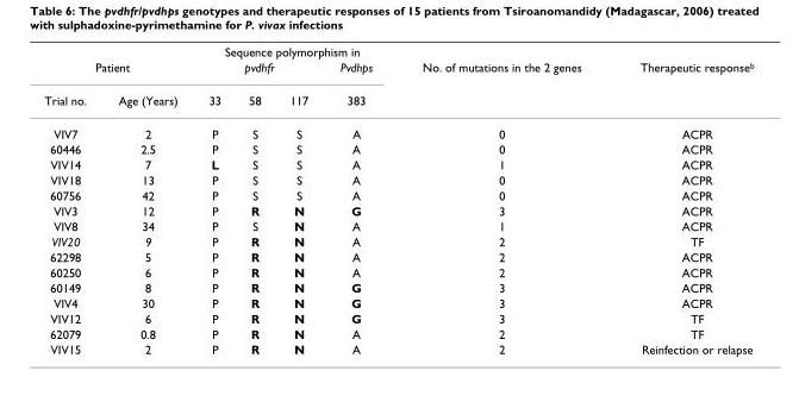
<table><thead><tr><td></td><td></td><td colspan="4">Sequence polymorphism in</td><td rowspan="3">No. of mutations in the 2 genes</td><td rowspan="3">Therapeutic response<sup>b</sup></td></tr><tr><td colspan="2">Patient</td><td colspan="3">pvdhfr</td><td rowspan="2">Pvdhps 383</td></tr><tr><td>Trial no.</td><td>Age (Years)</td><td>33</td><td>58</td><td>117</td></tr></thead><tbody><tr><td>VIV7</td><td>2</td><td>P</td><td>S</td><td>S</td><td>A</td><td>0</td><td>ACPR</td></tr><tr><td>60446</td><td>2.5</td><td>P</td><td>S</td><td>S</td><td>A</td><td>0</td><td>ACPR</td></tr><tr><td>VIV14</td><td>7</td><td>L</td><td>S</td><td>S</td><td>A</td><td>1</td><td>ACPR</td></tr><tr><td>VIV18</td><td>13</td><td>P</td><td>S</td><td>S</td><td>A</td><td>0</td><td>ACPR</td></tr><tr><td>60756</td><td>42</td><td>P</td><td>S</td><td>S</td><td>A</td><td>0</td><td>ACPR</td></tr><tr><td>VIV3</td><td>12</td><td>P</td><td>R</td><td>N</td><td>G</td><td>3</td><td>ACPR</td></tr><tr><td>VIV8</td><td>34</td><td>P</td><td>S</td><td>N</td><td>A</td><td>1</td><td>ACPR</td></tr><tr><td>VIV20</td><td>9</td><td>P</td><td>R</td><td>N</td><td>A</td><td>2</td><td>TF</td></tr><tr><td>62298</td><td>5</td><td>P</td><td>R</td><td>N</td><td>A</td><td>2</td><td>ACPR</td></tr><tr><td>60250</td><td>6</td><td>P</td><td>R</td><td>N</td><td>A</td><td>2</td><td>ACPR</td></tr><tr><td>60149</td><td>8</td><td>P</td><td>R</td><td>N</td><td>G</td><td>3</td><td>ACPR</td></tr><tr><td>VIV4</td><td>30</td><td>P</td><td>R</td><td>N</td><td>G</td><td>3</td><td>ACPR</td></tr><tr><td>VIV12</td><td>6</td><td>P</td><td>R</td><td>N</td><td>G</td><td>3</td><td>TF</td></tr><tr><td>62079</td><td>0.8</td><td>P</td><td>R</td><td>N</td><td>A</td><td>2</td><td>TF</td></tr><tr><td>VIV15</td><td>2</td><td>P</td><td>R</td><td>N</td><td>A</td><td>2</td><td>Reinfection or relapse</td></tr></tbody></table>